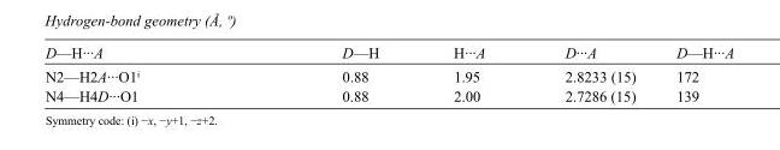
<table><tbody><tr><td>D—H···A</td><td>D—H</td><td>H···A</td><td>D···A</td><td>D—H···A</td></tr><tr><td>N2—H2A···O1<sup>i</sup></td><td>0.88</td><td>1.95</td><td>2.8233 (15)</td><td>172</td></tr><tr><td>N4—H4D···O1</td><td>0.88</td><td>2.00</td><td>2.7286 (15)</td><td>139</td></tr></tbody></table>